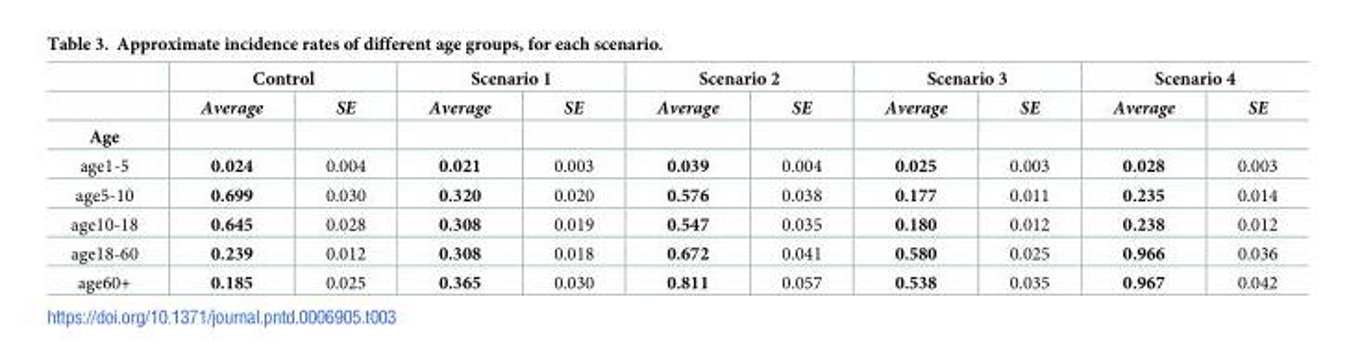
<table><thead><tr><td rowspan="2"></td><td colspan="2">Control</td><td colspan="2">Scenario 1</td><td colspan="2">Scenario 2</td><td colspan="2">Scenario 3</td><td colspan="2">Scenario 4</td></tr><tr><td>Average</td><td>SE</td><td>Average</td><td>SE</td><td>Average</td><td>SE</td><td>Average</td><td>SE</td><td>Average</td><td>SE</td></tr></thead><tbody><tr><td colspan="11">Age</td></tr><tr><td>age1-5</td><td>0.024</td><td>0.004</td><td>0.021</td><td>0.003</td><td>0.039</td><td>0.004</td><td>0.025</td><td>0.003</td><td>0.028</td><td>0.003</td></tr><tr><td>age5-10</td><td>0.699</td><td>0.030</td><td>0.320</td><td>0.020</td><td>0.576</td><td>0.038</td><td>0.177</td><td>0.011</td><td>0.235</td><td>0.014</td></tr><tr><td>age10-18</td><td>0.645</td><td>0.028</td><td>0.308</td><td>0.019</td><td>0.547</td><td>0.035</td><td>0.180</td><td>0.012</td><td>0.238</td><td>0.012</td></tr><tr><td>age18-60</td><td>0.239</td><td>0.012</td><td>0.308</td><td>0.018</td><td>0.672</td><td>0.041</td><td>0.580</td><td>0.025</td><td>0.966</td><td>0.036</td></tr><tr><td>age60+</td><td>0.185</td><td>0.025</td><td>0.365</td><td>0.030</td><td>0.811</td><td>0.057</td><td>0.538</td><td>0.035</td><td>0.967</td><td>0.042</td></tr></tbody></table>